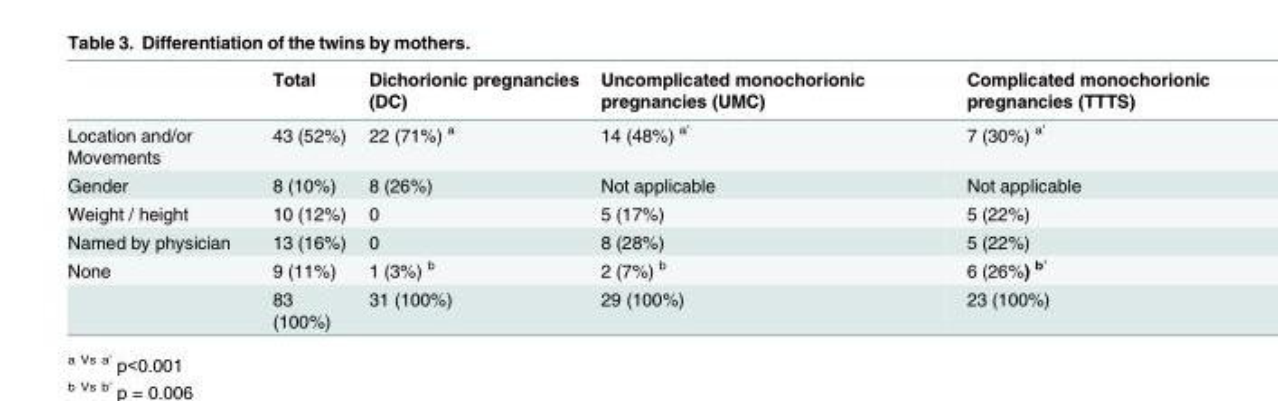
<table><thead><tr><td></td><td>Total</td><td>Dichorionic pregnancies (DC)</td><td>Uncomplicated monochorionic pregnancies (UMC)</td><td>Complicated monochorionic pregnancies (TTTS)</td></tr></thead><tbody><tr><td>Location and/or Movements</td><td>43 (52%)</td><td>22 (71%) <sup>a</sup></td><td>14 (48%) <sup>a’</sup></td><td>7 (30%) <sup>a’</sup></td></tr><tr><td>Gender</td><td>8 (10%)</td><td>8 (26%)</td><td>Not applicable</td><td>Not applicable</td></tr><tr><td>Weight / height</td><td>10 (12%)</td><td>0</td><td>5 (17%)</td><td>5 (22%)</td></tr><tr><td>Named by physician</td><td>13 (16%)</td><td>0</td><td>8 (28%)</td><td>5 (22%)</td></tr><tr><td rowspan="2">None</td><td>9 (11%)</td><td>1 (3%) <sup>b</sup></td><td>2 (7%) <sup>b</sup></td><td>6 (26%) <sup>b’</sup></td></tr><tr><td>83 (100%)</td><td>31 (100%)</td><td>29 (100%)</td><td>23 (100%)</td></tr></tbody></table>